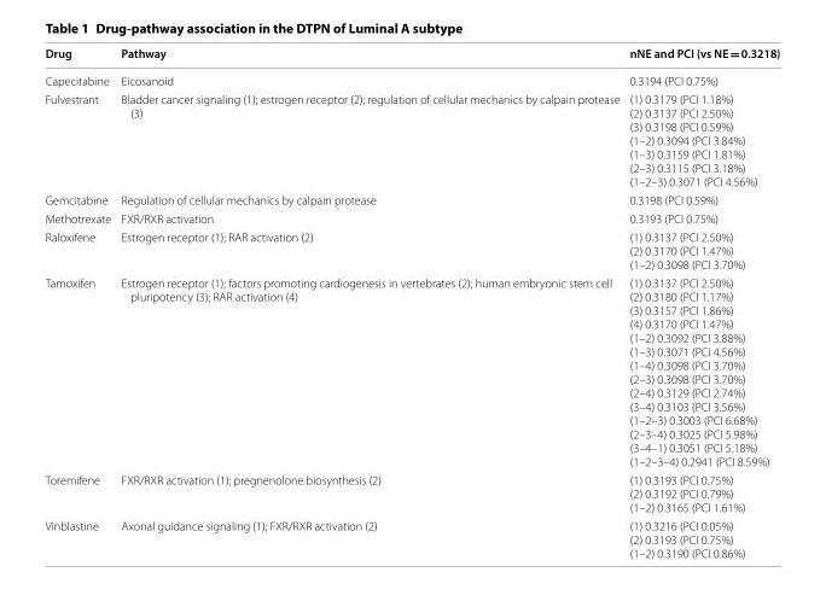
<table><thead><tr><td>Drug</td><td>Pathway</td><td>nNE and PCI (vs NE = 0.3218)</td></tr></thead><tbody><tr><td>Capecitabine</td><td>Eicosanoid</td><td>0.3194 (PCI 0.75%)</td></tr><tr><td>Fulvestrant</td><td>Bladder cancer signaling (1); estrogen receptor (2); regulation of cellular mechanics by calpain protease (3)</td><td>(1) 0.3179 (PCI 1.18%) (2) 0.3137 (PCI 2.50%) (3) 0.3198 (PCI 0.59%) (1–2) 0.3094 (PCI 3.84%) (1–3) 0.3159 (PCI 1.81%) (2–3) 0.3115 (PCI 3.18%) (1–2–3) 0.3071 (PCI 4.56%)</td></tr><tr><td>Gemcitabine</td><td>Regulation of cellular mechanics by calpain protease</td><td>0.3198 (PCI 0.59%)</td></tr><tr><td>Methotrexate</td><td>FXR/RXR activation</td><td>0.3193 (PCI 0.75%)</td></tr><tr><td>Raloxifene</td><td>Estrogen receptor (1); RAR activation (2)</td><td>(1) 0.3137 (PCI 2.50%) (2) 0.3170 (PCI 1.47%) (1–2) 0.3098 (PCI 3.70%)</td></tr><tr><td>Tamoxifen</td><td>Estrogen receptor (1); factors promoting cardiogenesis in vertebrates (2); human embryonic stem cell pluripotency (3); RAR activation (4)</td><td>(1) 0.3137 (PCI 2.50%) (2) 0.3180 (PCI 1.17%) (3) 0.3157 (PCI 1.86%) (4) 0.3170 (PCI 1.47%) (1–2) 0.3092 (PCI 3.88%) (1–3) 0.3071 (PCI 4.56%) (1–4) 0.3098 (PCI 3.70%) (2–3) 0.3098 (PCI 3.70%) (2–4) 0.3129 (PCI 2.74%) (3–4) 0.3103 (PCI 3.56%) (1–2–3) 0.3003 (PCI 6.68%) (2–3–4) 0.3025 (PCI 5.98%) (3–4–1) 0.3051 (PCI 5.18%) (1–2–3–4) 0.2941 (PCI 8.59%)</td></tr><tr><td>Toremifene</td><td>FXR/RXR activation (1); pregnenolone biosynthesis (2)</td><td>(1) 0.3193 (PCI 0.75%) (2) 0.3192 (PCI 0.79%) (1–2) 0.3165 (PCI 1.61%)</td></tr><tr><td>Vinblastine</td><td>Axonal guidance signaling (1); FXR/RXR activation (2)</td><td>(1) 0.3216 (PCI 0.05%) (2) 0.3193 (PCI 0.75%) (1–2) 0.3190 (PCI 0.86%)</td></tr></tbody></table>